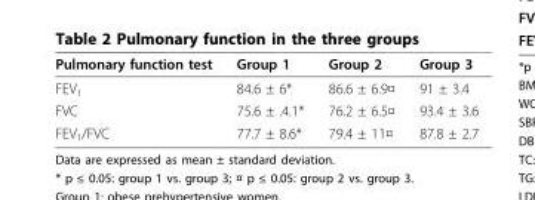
<table><thead><tr><td>Pulmonary function test</td><td>Group 1</td><td>Group 2</td><td>Group 3</td></tr></thead><tbody><tr><td>FEV<sub>1</sub></td><td>84.6 ± 6*</td><td>86.6 ± 6.9¤</td><td>91 ± 3.4</td></tr><tr><td>FVC</td><td>75.6 ± .4.1*</td><td>76.2 ± 6.5¤</td><td>93.4 ± 3.6</td></tr><tr><td>FEV<sub>1</sub>/FVC</td><td>77.7 ± 8.6*</td><td>79.4 ± 11¤</td><td>87.8 ± 2.7</td></tr></tbody></table>